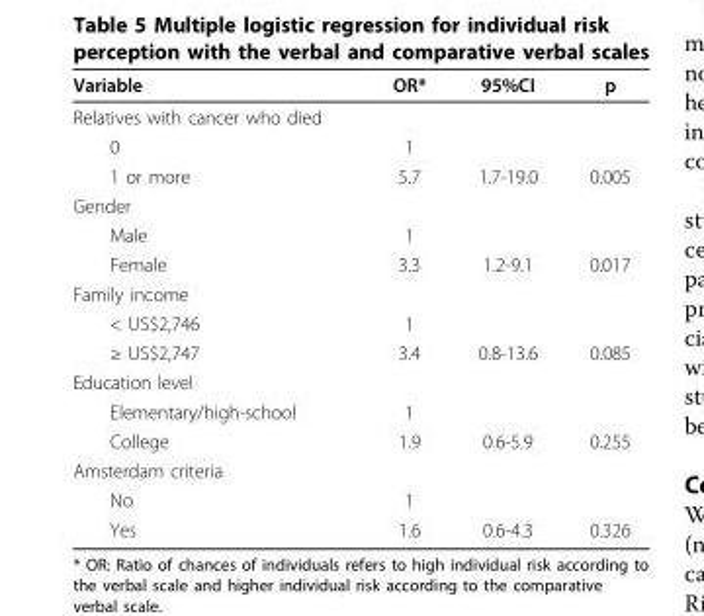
<table><thead><tr><td>Variable</td><td>OR*</td><td>95%CI</td><td>p</td></tr></thead><tbody><tr><td colspan="4">Relatives with cancer who died</td></tr><tr><td>0</td><td>1</td><td></td><td></td></tr><tr><td>1 or more</td><td>5.7</td><td>1.7-19.0</td><td>0.005</td></tr><tr><td colspan="4">Gender</td></tr><tr><td>Male</td><td>1</td><td></td><td></td></tr><tr><td>Female</td><td>3.3</td><td>1.2-9.1</td><td>0.017</td></tr><tr><td colspan="4">Family income</td></tr><tr><td>&lt; US$2,746</td><td>1</td><td></td><td></td></tr><tr><td>≥ US$2,747</td><td>3.4</td><td>0.8-13.6</td><td>0.085</td></tr><tr><td colspan="4">Education level</td></tr><tr><td>Elementary/high-school</td><td>1</td><td></td><td></td></tr><tr><td>College</td><td>1.9</td><td>0.6-5.9</td><td>0.255</td></tr><tr><td colspan="4">Amsterdam criteria</td></tr><tr><td>No</td><td>1</td><td></td><td></td></tr><tr><td>Yes</td><td>1.6</td><td>0.6-4.3</td><td>0.326</td></tr></tbody></table>